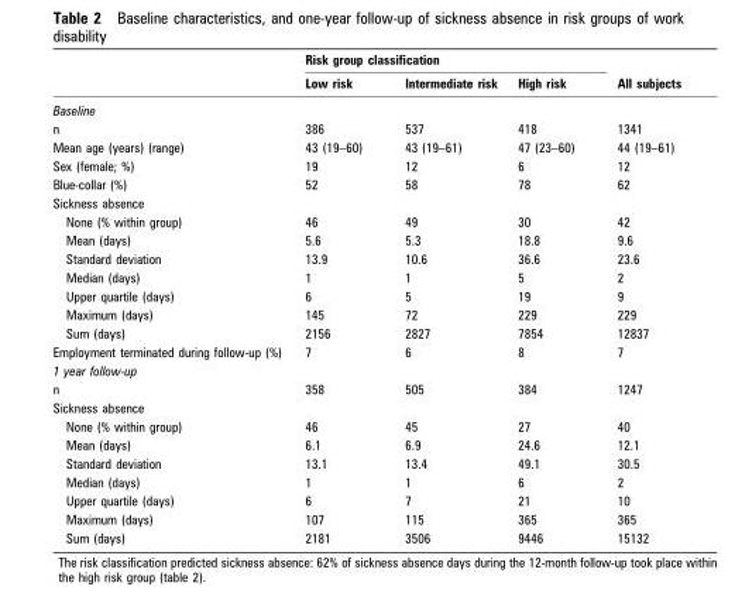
<table><thead><tr><td rowspan="2"></td><td colspan="3">Risk group classification</td><td rowspan="2">All subjects</td></tr><tr><td>Low risk</td><td>Intermediate risk</td><td>High risk</td></tr></thead><tbody><tr><td colspan="5">Baseline</td></tr><tr><td>n</td><td>386</td><td>537</td><td>418</td><td>1341</td></tr><tr><td>Mean age (years) (range)</td><td>43 (19–60)</td><td>43 (19–61)</td><td>47 (23–60)</td><td>44 (19–61)</td></tr><tr><td>Sex (female; %)</td><td>19</td><td>12</td><td>6</td><td>12</td></tr><tr><td>Blue-collar (%)</td><td>52</td><td>58</td><td>78</td><td>62</td></tr><tr><td colspan="5">Sickness absence</td></tr><tr><td>None (% within group)</td><td>46</td><td>49</td><td>30</td><td>42</td></tr><tr><td>Mean (days)</td><td>5.6</td><td>5.3</td><td>18.8</td><td>9.6</td></tr><tr><td>Standard deviation</td><td>13.9</td><td>10.6</td><td>36.6</td><td>23.6</td></tr><tr><td>Median (days)</td><td>1</td><td>1</td><td>5</td><td>2</td></tr><tr><td>Upper quartile (days)</td><td>6</td><td>5</td><td>19</td><td>9</td></tr><tr><td>Maximum (days)</td><td>145</td><td>72</td><td>229</td><td>229</td></tr><tr><td>Sum (days)</td><td>2156</td><td>2827</td><td>7854</td><td>12837</td></tr><tr><td>Employment terminated during follow-up (%)</td><td>7</td><td>6</td><td>8</td><td>7</td></tr><tr><td colspan="5">1 year follow-up</td></tr><tr><td>n</td><td>358</td><td>505</td><td>384</td><td>1247</td></tr><tr><td colspan="5">Sickness absence</td></tr><tr><td>None (% within group)</td><td>46</td><td>45</td><td>27</td><td>40</td></tr><tr><td>Mean (days)</td><td>6.1</td><td>6.9</td><td>24.6</td><td>12.1</td></tr><tr><td>Standard deviation</td><td>13.1</td><td>13.4</td><td>49.1</td><td>30.5</td></tr><tr><td>Median (days)</td><td>1</td><td>1</td><td>6</td><td>2</td></tr><tr><td>Upper quartile (days)</td><td>6</td><td>7</td><td>21</td><td>10</td></tr><tr><td>Maximum (days)</td><td>107</td><td>115</td><td>365</td><td>365</td></tr><tr><td>Sum (days)</td><td>2181</td><td>3506</td><td>9446</td><td>15132</td></tr></tbody></table>